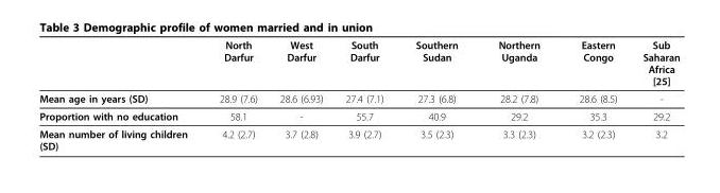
<table><thead><tr><td></td><td>North Darfur</td><td>West Darfur</td><td>South Darfur</td><td>Southern Sudan</td><td>Northern Uganda</td><td>Eastern Congo</td><td>Sub Saharan Africa [25]</td></tr></thead><tbody><tr><td>Mean age in years (SD)</td><td>28.9 (7.6)</td><td>28.6 (6.93)</td><td>27.4 (7.1)</td><td>27.3 (6.8)</td><td>28.2 (7.8)</td><td>28.6 (8.5)</td><td>-</td></tr><tr><td>Proportion with no education</td><td>58.1</td><td>-</td><td>55.7</td><td>40.9</td><td>29.2</td><td>35.3</td><td>29.2</td></tr><tr><td>Mean number of living children (SD)</td><td>4.2 (2.7)</td><td>3.7 (2.8)</td><td>3.9 (2.7)</td><td>3.5 (2.3)</td><td>3.3 (2.3)</td><td>3.2 (2.3)</td><td>3.2</td></tr></tbody></table>